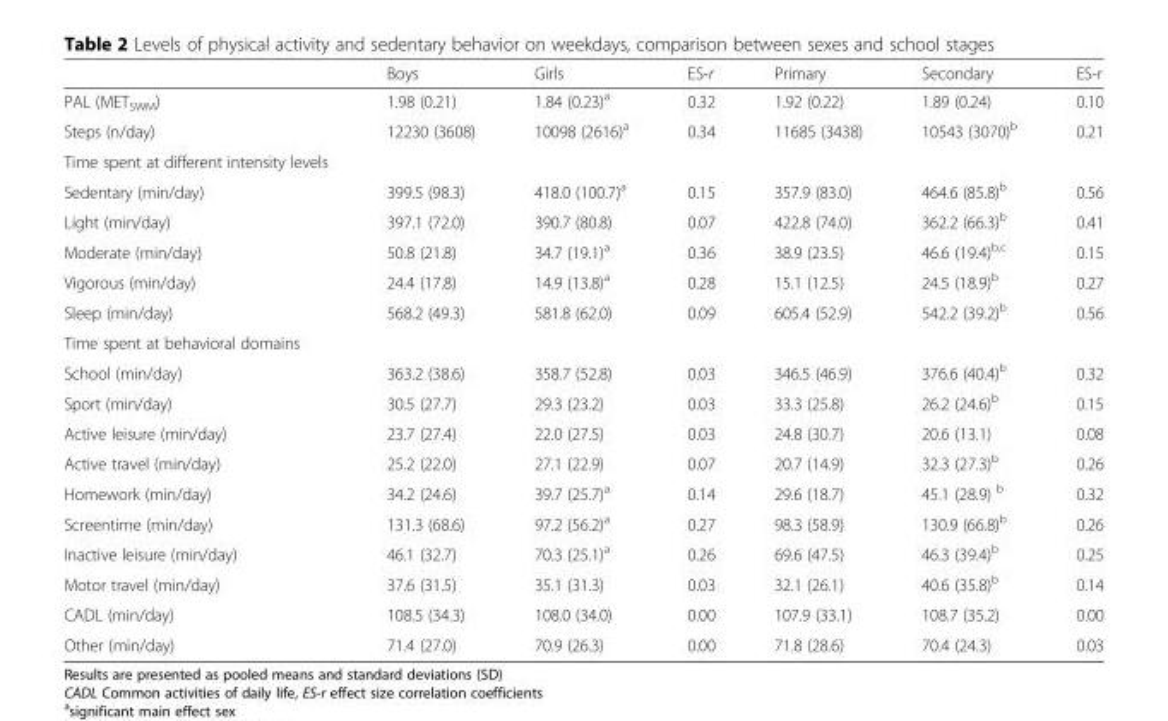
<table><thead><tr><td></td><td>Boys</td><td>Girls</td><td>ES-r</td><td>Primary</td><td>Secondary</td><td>ES-r</td></tr></thead><tbody><tr><td>PAL (MET<sub>SWM</sub>)</td><td>1.98 (0.21)</td><td>1.84 (0.23)<sup>a</sup></td><td>0.32</td><td>1.92 (0.22)</td><td>1.89 (0.24)</td><td>0.10</td></tr><tr><td>Steps (n/day)</td><td>12230 (3608)</td><td>10098 (2616)<sup>a</sup></td><td>0.34</td><td>11685 (3438)</td><td>10543 (3070)<sup>b</sup></td><td>0.21</td></tr><tr><td colspan="7">Time spent at different intensity levels</td></tr><tr><td>Sedentary (min/day)</td><td>399.5 (98.3)</td><td>418.0 (100.7)<sup>a</sup></td><td>0.15</td><td>357.9 (83.0)</td><td>464.6 (85.8)<sup>b</sup></td><td>0.56</td></tr><tr><td>Light (min/day)</td><td>397.1 (72.0)</td><td>390.7 (80.8)</td><td>0.07</td><td>422.8 (74.0)</td><td>362.2 (66.3)<sup>b</sup></td><td>0.41</td></tr><tr><td>Moderate (min/day)</td><td>50.8 (21.8)</td><td>34.7 (19.1)<sup>a</sup></td><td>0.36</td><td>38.9 (23.5)</td><td>46.6 (19.4)<sup>b,c</sup></td><td>0.15</td></tr><tr><td>Vigorous (min/day)</td><td>24.4 (17.8)</td><td>14.9 (13.8)<sup>a</sup></td><td>0.28</td><td>15.1 (12.5)</td><td>24.5 (18.9)<sup>b</sup></td><td>0.27</td></tr><tr><td>Sleep (min/day)</td><td>568.2 (49.3)</td><td>581.8 (62.0)</td><td>0.09</td><td>605.4 (52.9)</td><td>542.2 (39.2)<sup>b</sup></td><td>0.56</td></tr><tr><td colspan="7">Time spent at behavioral domains</td></tr><tr><td>School (min/day)</td><td>363.2 (38.6)</td><td>358.7 (52.8)</td><td>0.03</td><td>346.5 (46.9)</td><td>376.6 (40.4)<sup>b</sup></td><td>0.32</td></tr><tr><td>Sport (min/day)</td><td>30.5 (27.7)</td><td>29.3 (23.2)</td><td>0.03</td><td>33.3 (25.8)</td><td>26.2 (24.6)<sup>b</sup></td><td>0.15</td></tr><tr><td>Active leisure (min/day)</td><td>23.7 (27.4)</td><td>22.0 (27.5)</td><td>0.03</td><td>24.8 (30.7)</td><td>20.6 (13.1)</td><td>0.08</td></tr><tr><td>Active travel (min/day)</td><td>25.2 (22.0)</td><td>27.1 (22.9)</td><td>0.07</td><td>20.7 (14.9)</td><td>32.3 (27.3)<sup>b</sup></td><td>0.26</td></tr><tr><td>Homework (min/day)</td><td>34.2 (24.6)</td><td>39.7 (25.7)<sup>a</sup></td><td>0.14</td><td>29.6 (18.7)</td><td>45.1 (28.9) <sup>b</sup></td><td>0.32</td></tr><tr><td>Screentime (min/day)</td><td>131.3 (68.6)</td><td>97.2 (56.2)<sup>a</sup></td><td>0.27</td><td>98.3 (58.9)</td><td>130.9 (66.8)<sup>b</sup></td><td>0.26</td></tr><tr><td>Inactive leisure (min/day)</td><td>46.1 (32.7)</td><td>70.3 (25.1)<sup>a</sup></td><td>0.26</td><td>69.6 (47.5)</td><td>46.3 (39.4)<sup>b</sup></td><td>0.25</td></tr><tr><td>Motor travel (min/day)</td><td>37.6 (31.5)</td><td>35.1 (31.3)</td><td>0.03</td><td>32.1 (26.1)</td><td>40.6 (35.8)<sup>b</sup></td><td>0.14</td></tr><tr><td>CADL (min/day)</td><td>108.5 (34.3)</td><td>108.0 (34.0)</td><td>0.00</td><td>107.9 (33.1)</td><td>108.7 (35.2)</td><td>0.00</td></tr><tr><td>Other (min/day)</td><td>71.4 (27.0)</td><td>70.9 (26.3)</td><td>0.00</td><td>71.8 (28.6)</td><td>70.4 (24.3)</td><td>0.03</td></tr></tbody></table>